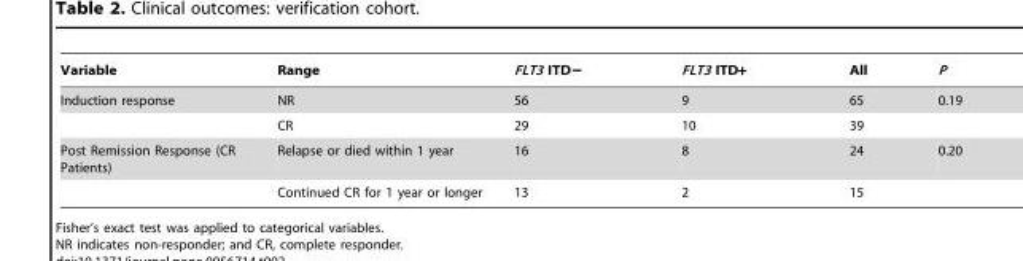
<table><thead><tr><td>Variable</td><td>Range</td><td>FLT3 ITD−</td><td>FLT3 ITD+</td><td>All</td><td>P</td></tr></thead><tbody><tr><td rowspan="2">Induction response</td><td>NR</td><td>56</td><td>9</td><td>65</td><td>0.19</td></tr><tr><td>CR</td><td>29</td><td>10</td><td>39</td><td></td></tr><tr><td rowspan="2">Post Remission Response (CR Patients)</td><td>Relapse or died within 1 year</td><td>16</td><td>8</td><td>24</td><td>0.20</td></tr><tr><td>Continued CR for 1 year or longer</td><td>13</td><td>2</td><td>15</td><td></td></tr></tbody></table>